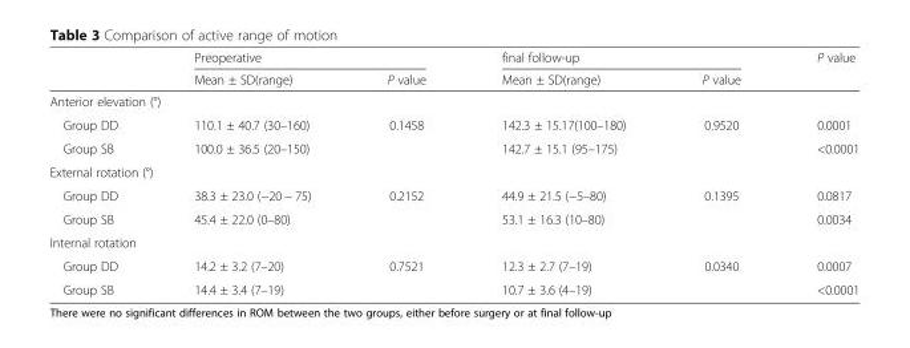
<table><thead><tr><td rowspan="2"></td><td colspan="2">Preoperative</td><td colspan="2">final follow-up</td><td rowspan="2">P value</td></tr><tr><td>Mean ± SD(range)</td><td>P value</td><td>Mean ± SD(range)</td><td>P value</td></tr></thead><tbody><tr><td colspan="6">Anterior elevation (°)</td></tr><tr><td>Group DD</td><td>110.1 ± 40.7 (30–160)</td><td>0.1458</td><td>142.3 ± 15.17(100–180)</td><td>0.9520</td><td>0.0001</td></tr><tr><td>Group SB</td><td>100.0 ± 36.5 (20–150)</td><td></td><td>142.7 ± 15.1 (95–175)</td><td></td><td>&lt;0.0001</td></tr><tr><td colspan="6">External rotation (°)</td></tr><tr><td>Group DD</td><td>38.3 ± 23.0 (−20 − 75)</td><td>0.2152</td><td>44.9 ± 21.5 (−5–80)</td><td>0.1395</td><td>0.0817</td></tr><tr><td>Group SB</td><td>45.4 ± 22.0 (0–80)</td><td></td><td>53.1 ± 16.3 (10–80)</td><td></td><td>0.0034</td></tr><tr><td colspan="6">Internal rotation</td></tr><tr><td>Group DD</td><td>14.2 ± 3.2 (7–20)</td><td>0.7521</td><td>12.3 ± 2.7 (7–19)</td><td>0.0340</td><td>0.0007</td></tr><tr><td>Group SB</td><td>14.4 ± 3.4 (7–19)</td><td></td><td>10.7 ± 3.6 (4–19)</td><td></td><td>&lt;0.0001</td></tr></tbody></table>